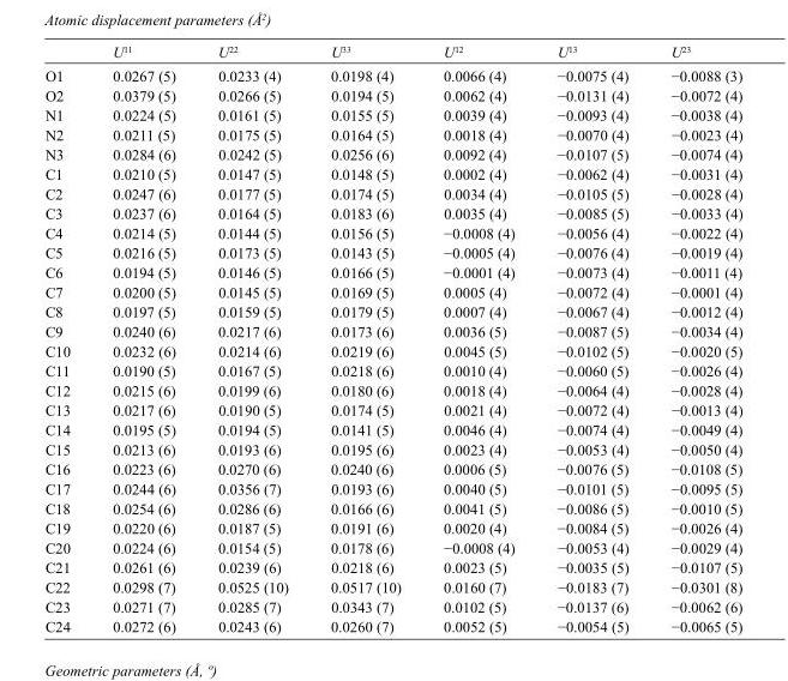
<table><thead><tr><td></td><td>U<sup>11</sup></td><td>U<sup>22</sup></td><td>U<sup>33</sup></td><td>U<sup>12</sup></td><td>U<sup>13</sup></td><td>U<sup>23</sup></td></tr></thead><tbody><tr><td>O1</td><td>0.0267 (5)</td><td>0.0233 (4)</td><td>0.0198 (4)</td><td>0.0066 (4)</td><td>−0.0075 (4)</td><td>−0.0088 (3)</td></tr><tr><td>O2</td><td>0.0379 (5)</td><td>0.0266 (5)</td><td>0.0194 (5)</td><td>0.0062 (4)</td><td>−0.0131 (4)</td><td>−0.0072 (4)</td></tr><tr><td>N1</td><td>0.0224 (5)</td><td>0.0161 (5)</td><td>0.0155 (5)</td><td>0.0039 (4)</td><td>−0.0093 (4)</td><td>−0.0038 (4)</td></tr><tr><td>N2</td><td>0.0211 (5)</td><td>0.0175 (5)</td><td>0.0164 (5)</td><td>0.0018 (4)</td><td>−0.0070 (4)</td><td>−0.0023 (4)</td></tr><tr><td>N3</td><td>0.0284 (6)</td><td>0.0242 (5)</td><td>0.0256 (6)</td><td>0.0092 (4)</td><td>−0.0107 (5)</td><td>−0.0074 (4)</td></tr><tr><td>C1</td><td>0.0210 (5)</td><td>0.0147 (5)</td><td>0.0148 (5)</td><td>0.0002 (4)</td><td>−0.0062 (4)</td><td>−0.0031 (4)</td></tr><tr><td>C2</td><td>0.0247 (6)</td><td>0.0177 (5)</td><td>0.0174 (5)</td><td>0.0034 (4)</td><td>−0.0105 (5)</td><td>−0.0028 (4)</td></tr><tr><td>C3</td><td>0.0237 (6)</td><td>0.0164 (5)</td><td>0.0183 (6)</td><td>0.0035 (4)</td><td>−0.0085 (5)</td><td>−0.0033 (4)</td></tr><tr><td>C4</td><td>0.0214 (5)</td><td>0.0144 (5)</td><td>0.0156 (5)</td><td>−0.0008 (4)</td><td>−0.0056 (4)</td><td>−0.0022 (4)</td></tr><tr><td>C5</td><td>0.0216 (5)</td><td>0.0173 (5)</td><td>0.0143 (5)</td><td>−0.0005 (4)</td><td>−0.0076 (4)</td><td>−0.0019 (4)</td></tr><tr><td>C6</td><td>0.0194 (5)</td><td>0.0146 (5)</td><td>0.0166 (5)</td><td>−0.0001 (4)</td><td>−0.0073 (4)</td><td>−0.0011 (4)</td></tr><tr><td>C7</td><td>0.0200 (5)</td><td>0.0145 (5)</td><td>0.0169 (5)</td><td>0.0005 (4)</td><td>−0.0072 (4)</td><td>−0.0001 (4)</td></tr><tr><td>C8</td><td>0.0197 (5)</td><td>0.0159 (5)</td><td>0.0179 (5)</td><td>0.0007 (4)</td><td>−0.0067 (4)</td><td>−0.0012 (4)</td></tr><tr><td>C9</td><td>0.0240 (6)</td><td>0.0217 (6)</td><td>0.0173 (6)</td><td>0.0036 (5)</td><td>−0.0087 (5)</td><td>−0.0034 (4)</td></tr><tr><td>C10</td><td>0.0232 (6)</td><td>0.0214 (6)</td><td>0.0219 (6)</td><td>0.0045 (5)</td><td>−0.0102 (5)</td><td>−0.0020 (5)</td></tr><tr><td>C11</td><td>0.0190 (5)</td><td>0.0167 (5)</td><td>0.0218 (6)</td><td>0.0010 (4)</td><td>−0.0060 (5)</td><td>−0.0026 (4)</td></tr><tr><td>C12</td><td>0.0215 (6)</td><td>0.0199 (6)</td><td>0.0180 (6)</td><td>0.0018 (4)</td><td>−0.0064 (4)</td><td>−0.0028 (4)</td></tr><tr><td>C13</td><td>0.0217 (6)</td><td>0.0190 (5)</td><td>0.0174 (5)</td><td>0.0021 (4)</td><td>−0.0072 (4)</td><td>−0.0013 (4)</td></tr><tr><td>C14</td><td>0.0195 (5)</td><td>0.0194 (5)</td><td>0.0141 (5)</td><td>0.0046 (4)</td><td>−0.0074 (4)</td><td>−0.0049 (4)</td></tr><tr><td>C15</td><td>0.0213 (6)</td><td>0.0193 (6)</td><td>0.0195 (6)</td><td>0.0023 (4)</td><td>−0.0053 (4)</td><td>−0.0050 (4)</td></tr><tr><td>C16</td><td>0.0223 (6)</td><td>0.0270 (6)</td><td>0.0240 (6)</td><td>0.0006 (5)</td><td>−0.0076 (5)</td><td>−0.0108 (5)</td></tr><tr><td>C17</td><td>0.0244 (6)</td><td>0.0356 (7)</td><td>0.0193 (6)</td><td>0.0040 (5)</td><td>−0.0101 (5)</td><td>−0.0095 (5)</td></tr><tr><td>C18</td><td>0.0254 (6)</td><td>0.0286 (6)</td><td>0.0166 (6)</td><td>0.0041 (5)</td><td>−0.0086 (5)</td><td>−0.0010 (5)</td></tr><tr><td>C19</td><td>0.0220 (6)</td><td>0.0187 (5)</td><td>0.0191 (6)</td><td>0.0020 (4)</td><td>−0.0084 (5)</td><td>−0.0026 (4)</td></tr><tr><td>C20</td><td>0.0224 (6)</td><td>0.0154 (5)</td><td>0.0178 (6)</td><td>−0.0008 (4)</td><td>−0.0053 (4)</td><td>−0.0029 (4)</td></tr><tr><td>C21</td><td>0.0261 (6)</td><td>0.0239 (6)</td><td>0.0218 (6)</td><td>0.0023 (5)</td><td>−0.0035 (5)</td><td>−0.0107 (5)</td></tr><tr><td>C22</td><td>0.0298 (7)</td><td>0.0525 (10)</td><td>0.0517 (10)</td><td>0.0160 (7)</td><td>−0.0183 (7)</td><td>−0.0301 (8)</td></tr><tr><td>C23</td><td>0.0271 (7)</td><td>0.0285 (7)</td><td>0.0343 (7)</td><td>0.0102 (5)</td><td>−0.0137 (6)</td><td>−0.0062 (6)</td></tr><tr><td>C24</td><td>0.0272 (6)</td><td>0.0243 (6)</td><td>0.0260 (7)</td><td>0.0052 (5)</td><td>−0.0054 (5)</td><td>−0.0065 (5)</td></tr></tbody></table>